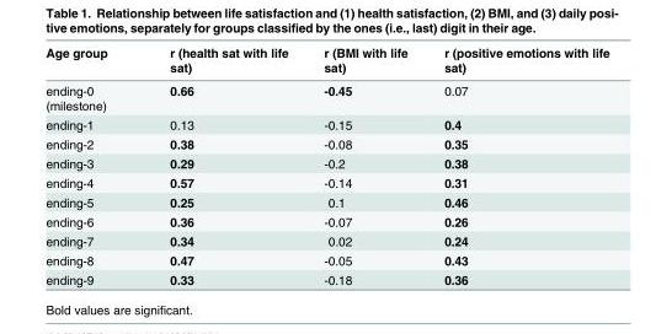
<table><thead><tr><td>Age group</td><td>r (health sat with life sat)</td><td>r (BMI with life sat)</td><td>r (positive emotions with life sat)</td></tr></thead><tbody><tr><td>ending-0 (milestone)</td><td>0.66</td><td>-0.45</td><td>0.07</td></tr><tr><td>ending-1</td><td>0.13</td><td>-0.15</td><td>0.4</td></tr><tr><td>ending-2</td><td>0.38</td><td>-0.08</td><td>0.35</td></tr><tr><td>ending-3</td><td>0.29</td><td>-0.2</td><td>0.38</td></tr><tr><td>ending-4</td><td>0.57</td><td>-0.14</td><td>0.31</td></tr><tr><td>ending-5</td><td>0.25</td><td>0.1</td><td>0.46</td></tr><tr><td>ending-6</td><td>0.36</td><td>-0.07</td><td>0.26</td></tr><tr><td>ending-7</td><td>0.34</td><td>0.02</td><td>0.24</td></tr><tr><td>ending-8</td><td>0.47</td><td>-0.05</td><td>0.43</td></tr><tr><td>ending-9</td><td>0.33</td><td>-0.18</td><td>0.36</td></tr></tbody></table>